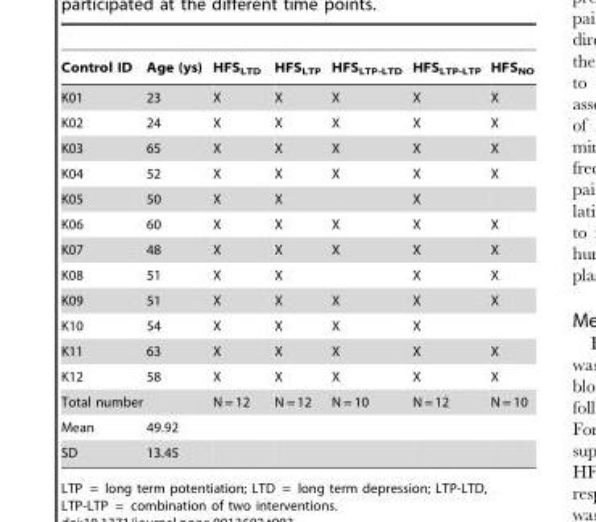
<table><thead><tr><td>Control ID</td><td>Age (ys)</td><td>HFS<sub>LTD</sub></td><td>HFS<sub>LTP</sub></td><td>HFS<sub>LTP-LTD</sub></td><td>HFS<sub>LTP-LTP</sub></td><td>HFS<sub>NO</sub></td></tr></thead><tbody><tr><td>K01</td><td>23</td><td>X</td><td>X</td><td>X</td><td>X</td><td>X</td></tr><tr><td>K02</td><td>24</td><td>X</td><td>X</td><td>X</td><td>X</td><td>X</td></tr><tr><td>K03</td><td>65</td><td>X</td><td>X</td><td>X</td><td>X</td><td>X</td></tr><tr><td>K04</td><td>52</td><td>X</td><td>X</td><td>X</td><td>X</td><td>X</td></tr><tr><td>K05</td><td>50</td><td>X</td><td>X</td><td></td><td>X</td><td></td></tr><tr><td>K06</td><td>60</td><td>X</td><td>X</td><td>X</td><td>X</td><td>X</td></tr><tr><td>K07</td><td>48</td><td>X</td><td>X</td><td>X</td><td>X</td><td>X</td></tr><tr><td>K08</td><td>51</td><td>X</td><td>X</td><td></td><td>X</td><td>X</td></tr><tr><td>K09</td><td>51</td><td>X</td><td>X</td><td>X</td><td>X</td><td>X</td></tr><tr><td>K10</td><td>54</td><td>X</td><td>X</td><td>X</td><td>X</td><td></td></tr><tr><td>K11</td><td>63</td><td>X</td><td>X</td><td>X</td><td>X</td><td>X</td></tr><tr><td>K12</td><td>58</td><td>X</td><td>X</td><td>X</td><td>X</td><td>X</td></tr><tr><td>Total number</td><td></td><td>N = 12</td><td>N = 12</td><td>N = 10</td><td>N = 12</td><td>N = 10</td></tr><tr><td>Mean</td><td>49.92</td><td></td><td></td><td></td><td></td><td></td></tr><tr><td>SD</td><td>13.45</td><td></td><td></td><td></td><td></td><td></td></tr></tbody></table>